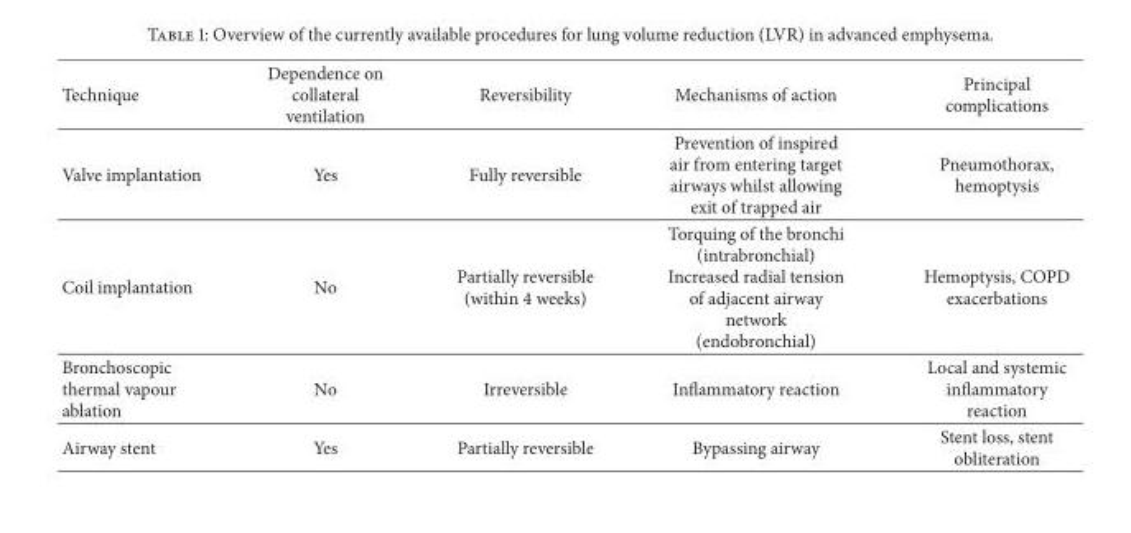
<table><thead><tr><td>Technique</td><td>Dependence on collateral ventilation</td><td>Reversibility</td><td>Mechanisms of action</td><td>Principal complications</td></tr></thead><tbody><tr><td>Valve implantation</td><td>Yes</td><td>Fully reversible</td><td>Prevention of inspired air from entering target airways whilst allowing exit of trapped air</td><td>Pneumothorax, hemoptysis</td></tr><tr><td>Coil implantation</td><td>No</td><td>Partially reversible (within 4 weeks)</td><td>Torquing of the bronchi (intrabronchial) Increased radial tension of adjacent airway network (endobronchial)</td><td>Hemoptysis, COPD exacerbations</td></tr><tr><td>Bronchoscopic thermal vapour ablation</td><td>No</td><td>Irreversible</td><td>Inflammatory reaction</td><td>Local and systemic inflammatory reaction</td></tr><tr><td>Airway stent</td><td>Yes</td><td>Partially reversible</td><td>Bypassing airway</td><td>Stent loss, stent obliteration</td></tr></tbody></table>